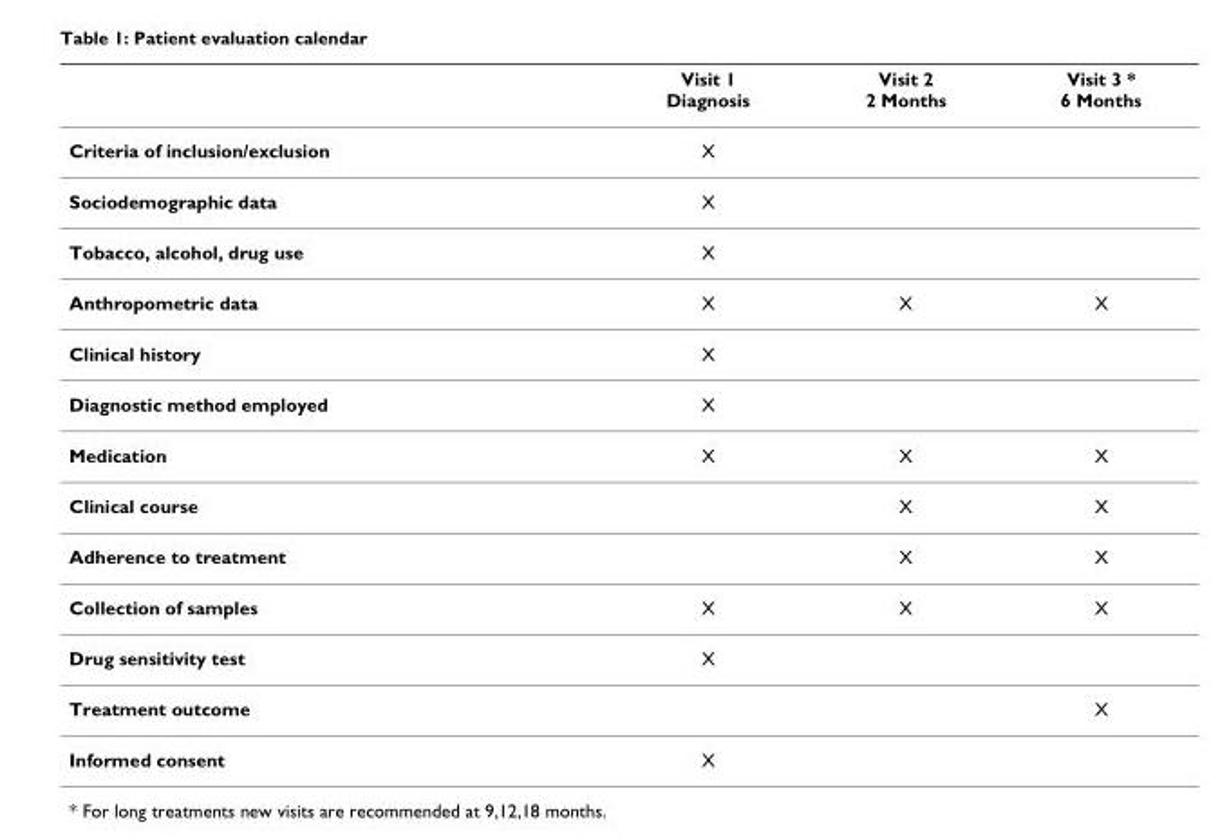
<table><thead><tr><td></td><td>Visit 1 Diagnosis</td><td>Visit 2 2 Months</td><td>Visit 3 * 6 Months</td></tr></thead><tbody><tr><td>Criteria of inclusion/exclusion</td><td>X</td><td></td><td></td></tr><tr><td>Sociodemographic data</td><td>X</td><td></td><td></td></tr><tr><td>Tobacco, alcohol, drug use</td><td>X</td><td></td><td></td></tr><tr><td>Anthropometric data</td><td>X</td><td>X</td><td>X</td></tr><tr><td>Clinical history</td><td>X</td><td></td><td></td></tr><tr><td>Diagnostic method employed</td><td>X</td><td></td><td></td></tr><tr><td>Medication</td><td>X</td><td>X</td><td>X</td></tr><tr><td>Clinical course</td><td></td><td>X</td><td>X</td></tr><tr><td>Adherence to treatment</td><td></td><td>X</td><td>X</td></tr><tr><td>Collection of samples</td><td>X</td><td>X</td><td>X</td></tr><tr><td>Drug sensitivity test</td><td>X</td><td></td><td></td></tr><tr><td>Treatment outcome</td><td></td><td></td><td>X</td></tr><tr><td>Informed consent</td><td>X</td><td></td><td></td></tr></tbody></table>